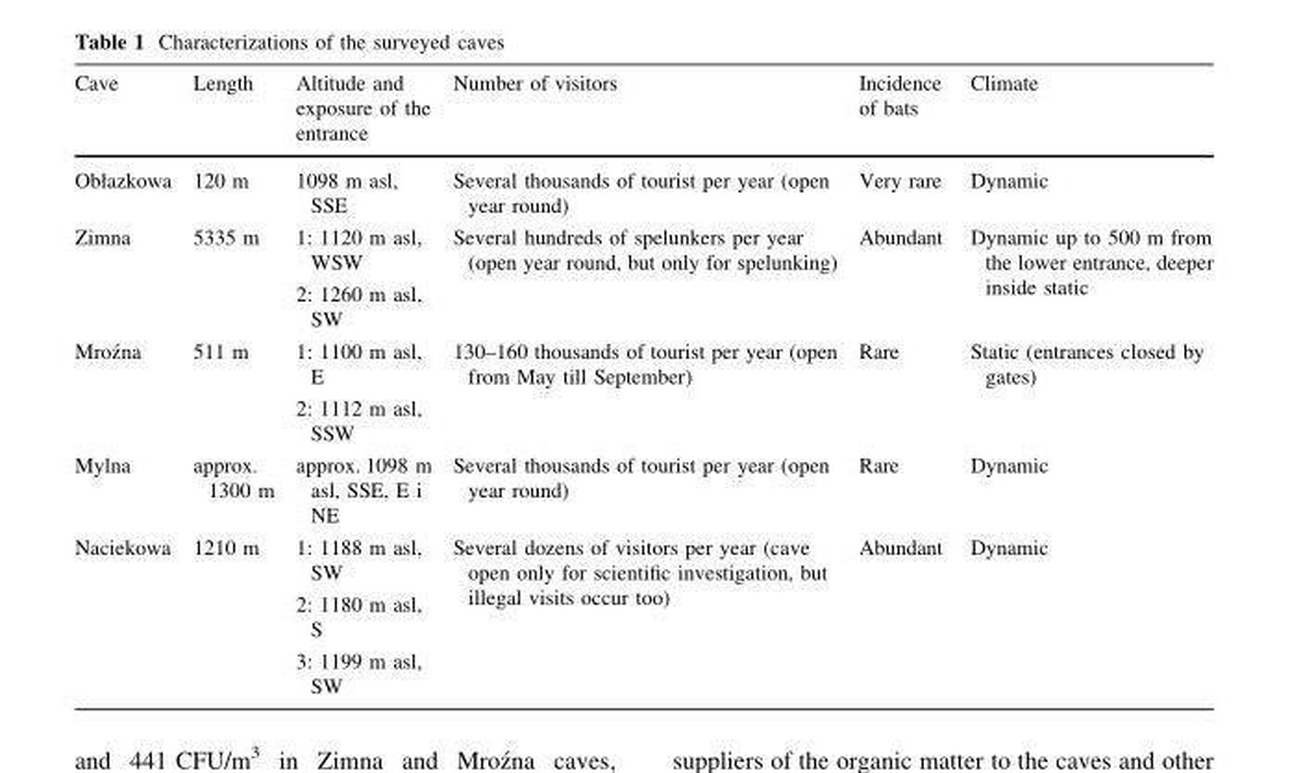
<table><thead><tr><td>Cave</td><td>Length</td><td>Altitude and exposure of the entrance</td><td>Number of visitors</td><td>Incidence of bats</td><td>Climate</td></tr></thead><tbody><tr><td>Obłazkowa</td><td>120 m</td><td>1098 m asl, SSE</td><td>Several thousands of tourist per year (open year round)</td><td>Very rare</td><td>Dynamic</td></tr><tr><td>Zimna</td><td>5335 m</td><td>1: 1120 m asl, WSW 2: 1260 m asl, SW</td><td>Several hundreds of spelunkers per year (open year round, but only for spelunking)</td><td>Abundant</td><td>Dynamic up to 500 m from the lower entrance, deeper inside static</td></tr><tr><td>Mroz´na</td><td>511 m</td><td>1: 1100 m asl, E 2: 1112 m asl, SSW</td><td>130–160 thousands of tourist per year (open from May till September)</td><td>Rare</td><td>Static (entrances closed by gates)</td></tr><tr><td>Mylna</td><td>approx. 1300 m</td><td>approx. 1098 m asl, SSE, E i NE</td><td>Several thousands of tourist per year (open year round)</td><td>Rare</td><td>Dynamic</td></tr><tr><td>Naciekowa</td><td>1210 m</td><td>1: 1188 m asl, SW 2: 1180 m asl, S 3: 1199 m asl, SW</td><td>Several dozens of visitors per year (cave open only for scientific investigation, but illegal visits occur too)</td><td>Abundant</td><td>Dynamic</td></tr></tbody></table>